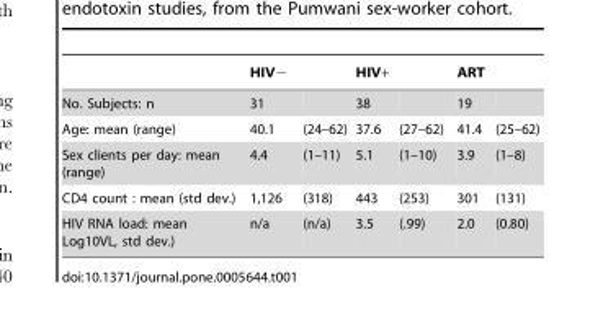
<table><thead><tr><td rowspan="2">No. Subjects: n</td><td colspan="2">HIV−</td><td colspan="2">HIV+</td><td colspan="2">ART</td></tr><tr><td>31</td><td></td><td>38</td><td></td><td>19</td><td></td></tr></thead><tbody><tr><td>Age: mean (range)</td><td>40.1</td><td>(24–62)</td><td>37.6</td><td>(27–62)</td><td>41.4</td><td>(25–62)</td></tr><tr><td>Sex clients per day: mean (range)</td><td>4.4</td><td>(1–11)</td><td>5.1</td><td>(1–10)</td><td>3.9</td><td>(1–8)</td></tr><tr><td>CD4 count : mean (std dev.)</td><td>1,126</td><td>(318)</td><td>443</td><td>(253)</td><td>301</td><td>(131)</td></tr><tr><td>HIV RNA load: mean Log10VL, std dev.)</td><td>n/a</td><td>(n/a)</td><td>3.5</td><td>(.99)</td><td>2.0</td><td>(0.80)</td></tr></tbody></table>